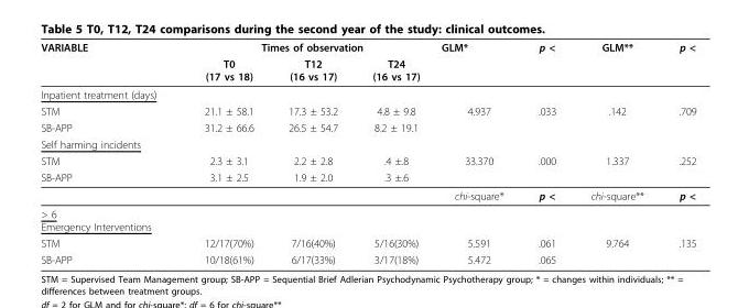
<table><thead><tr><td rowspan="2">VARIABLE</td><td colspan="3">Times of observation</td><td rowspan="2">GLM*</td><td rowspan="2">p &lt;</td><td rowspan="2">GLM**</td><td rowspan="2">p &lt;</td></tr><tr><td>T0 (17 vs 18)</td><td>T12 (16 vs 17)</td><td>T24 (16 vs 17)</td></tr></thead><tbody><tr><td colspan="8">Inpatient treatment (days)</td></tr><tr><td>STM</td><td>21.1 ± 58.1</td><td>17.3 ± 53.2</td><td>4.8 ± 9.8</td><td>4.937</td><td>.033</td><td>.142</td><td>.709</td></tr><tr><td>SB-APP</td><td>31.2 ± 66.6</td><td>26.5 ± 54.7</td><td>8.2 ± 19.1</td><td></td><td></td><td></td><td></td></tr><tr><td colspan="8">Self harming incidents</td></tr><tr><td>STM</td><td>2.3 ± 3.1</td><td>2.2 ± 2.8</td><td>.4 ±.8</td><td>33.370</td><td>.000</td><td>1.337</td><td>.252</td></tr><tr><td rowspan="2">SB-APP</td><td>3.1 ± 2.5</td><td>1.9 ± 2.0</td><td>.3 ±.6</td><td></td><td></td><td></td><td></td></tr><tr><td></td><td></td><td></td><td>chi-square*</td><td>p &lt;</td><td>chi-square**</td><td>p &lt;</td></tr><tr><td colspan="8">&gt; 6 Emergency Interventions</td></tr><tr><td>STM</td><td>12/17(70%)</td><td>7/16(40%)</td><td>5/16(30%)</td><td>5.591</td><td>.061</td><td>9.764</td><td>.135</td></tr><tr><td>SB-APP</td><td>10/18(61%)</td><td>6/17(33%)</td><td>3/17(18%)</td><td>5.472</td><td>.065</td><td></td><td></td></tr></tbody></table>